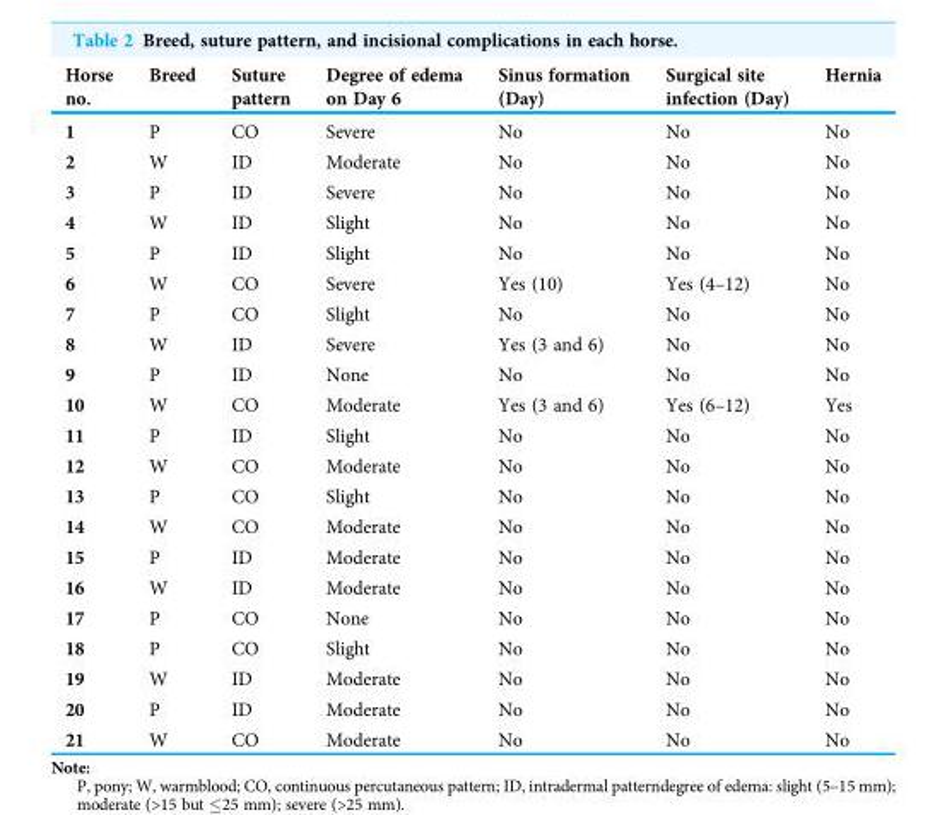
<table><thead><tr><td>Horse no.</td><td>Breed</td><td>Suture pattern</td><td>Degree of edema on Day 6</td><td>Sinus formation (Day)</td><td>Surgical site infection (Day)</td><td>Hernia</td></tr></thead><tbody><tr><td>1</td><td>P</td><td>CO</td><td>Severe</td><td>No</td><td>No</td><td>No</td></tr><tr><td>2</td><td>W</td><td>ID</td><td>Moderate</td><td>No</td><td>No</td><td>No</td></tr><tr><td>3</td><td>P</td><td>ID</td><td>Severe</td><td>No</td><td>No</td><td>No</td></tr><tr><td>4</td><td>W</td><td>ID</td><td>Slight</td><td>No</td><td>No</td><td>No</td></tr><tr><td>5</td><td>P</td><td>ID</td><td>Slight</td><td>No</td><td>No</td><td>No</td></tr><tr><td>6</td><td>W</td><td>CO</td><td>Severe</td><td>Yes (10)</td><td>Yes (4–12)</td><td>No</td></tr><tr><td>7</td><td>P</td><td>CO</td><td>Slight</td><td>No</td><td>No</td><td>No</td></tr><tr><td>8</td><td>W</td><td>ID</td><td>Severe</td><td>Yes (3 and 6)</td><td>No</td><td>No</td></tr><tr><td>9</td><td>P</td><td>ID</td><td>None</td><td>No</td><td>No</td><td>No</td></tr><tr><td>10</td><td>W</td><td>CO</td><td>Moderate</td><td>Yes (3 and 6)</td><td>Yes (6–12)</td><td>Yes</td></tr><tr><td>11</td><td>P</td><td>ID</td><td>Slight</td><td>No</td><td>No</td><td>No</td></tr><tr><td>12</td><td>W</td><td>CO</td><td>Moderate</td><td>No</td><td>No</td><td>No</td></tr><tr><td>13</td><td>P</td><td>CO</td><td>Slight</td><td>No</td><td>No</td><td>No</td></tr><tr><td>14</td><td>W</td><td>CO</td><td>Moderate</td><td>No</td><td>No</td><td>No</td></tr><tr><td>15</td><td>P</td><td>ID</td><td>Moderate</td><td>No</td><td>No</td><td>No</td></tr><tr><td>16</td><td>W</td><td>ID</td><td>Moderate</td><td>No</td><td>No</td><td>No</td></tr><tr><td>17</td><td>P</td><td>CO</td><td>None</td><td>No</td><td>No</td><td>No</td></tr><tr><td>18</td><td>P</td><td>CO</td><td>Slight</td><td>No</td><td>No</td><td>No</td></tr><tr><td>19</td><td>W</td><td>ID</td><td>Moderate</td><td>No</td><td>No</td><td>No</td></tr><tr><td>20</td><td>P</td><td>ID</td><td>Moderate</td><td>No</td><td>No</td><td>No</td></tr><tr><td>21</td><td>W</td><td>CO</td><td>Moderate</td><td>No</td><td>No</td><td>No</td></tr></tbody></table>